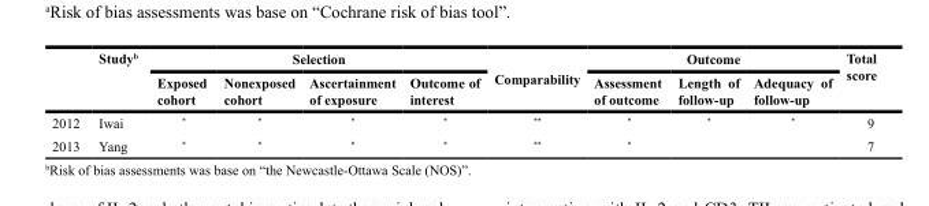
<table><thead><tr><td rowspan="2"></td><td rowspan="2">Study<sup>b</sup></td><td colspan="4">Selection</td><td rowspan="2">Comparability</td><td colspan="3">Outcome</td><td rowspan="2">Total score</td></tr><tr><td>Exposed cohort</td><td>Nonexposed cohort</td><td>Ascertainment of exposure</td><td>Outcome of interest</td><td>Assessment of outcome</td><td>Length of follow-up</td><td>Adequacy of follow-up</td></tr></thead><tbody><tr><td>2012</td><td>Iwai</td><td>*</td><td>*</td><td>*</td><td>*</td><td>**</td><td>*</td><td>*</td><td>*</td><td>9</td></tr><tr><td>2013</td><td>Yang</td><td>*</td><td>*</td><td>*</td><td>*</td><td>**</td><td>*</td><td></td><td></td><td>7</td></tr></tbody></table>